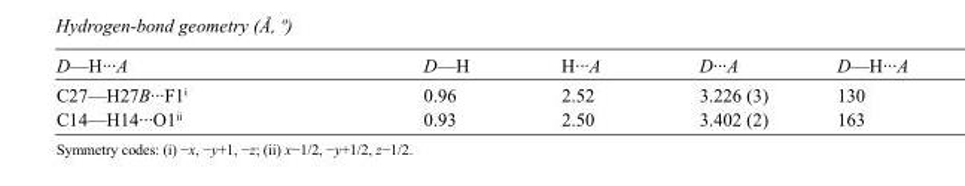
<table><tbody><tr><td>D—H···A</td><td>D—H</td><td>H···A</td><td>D···A</td><td>D—H···A</td></tr><tr><td>C27—H27B···F1<sup>i</sup></td><td>0.96</td><td>2.52</td><td>3.226 (3)</td><td>130</td></tr><tr><td>C14—H14···O1<sup>ii</sup></td><td>0.93</td><td>2.50</td><td>3.402 (2)</td><td>163</td></tr></tbody></table>